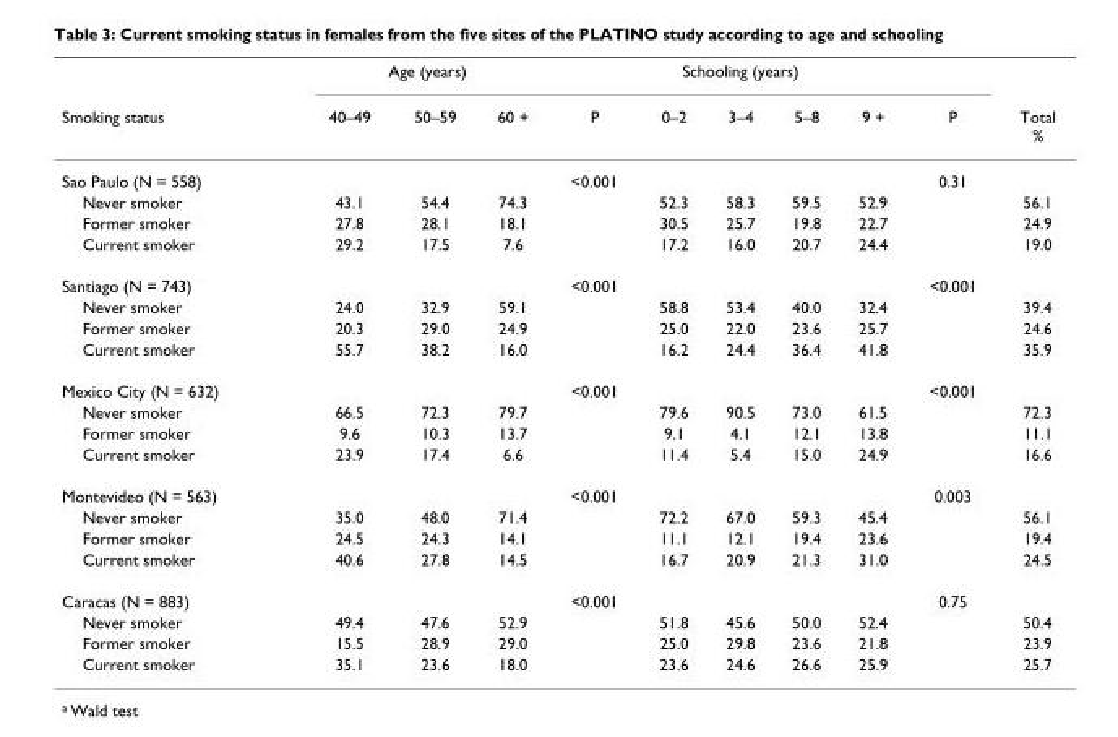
<table><thead><tr><td rowspan="2">Smoking status</td><td colspan="3">Age (years)</td><td rowspan="2">P</td><td colspan="3">Schooling (years)</td><td rowspan="2">9 +</td><td rowspan="2">P</td><td rowspan="2">Total %</td></tr><tr><td>40–49</td><td>50–59</td><td>60 +</td><td>0–2</td><td>3–4</td><td>5–8</td></tr></thead><tbody><tr><td>Sao Paulo (N = 558)</td><td></td><td></td><td></td><td>&lt;0.001</td><td></td><td></td><td></td><td></td><td>0.31</td><td></td></tr><tr><td>Never smoker</td><td>43.1</td><td>54.4</td><td>74.3</td><td></td><td>52.3</td><td>58.3</td><td>59.5</td><td>52.9</td><td></td><td>56.1</td></tr><tr><td>Former smoker</td><td>27.8</td><td>28.1</td><td>18.1</td><td></td><td>30.5</td><td>25.7</td><td>19.8</td><td>22.7</td><td></td><td>24.9</td></tr><tr><td>Current smoker</td><td>29.2</td><td>17.5</td><td>7.6</td><td></td><td>17.2</td><td>16.0</td><td>20.7</td><td>24.4</td><td></td><td>19.0</td></tr><tr><td>Santiago (N = 743)</td><td></td><td></td><td></td><td>&lt;0.001</td><td></td><td></td><td></td><td></td><td>&lt;0.001</td><td></td></tr><tr><td>Never smoker</td><td>24.0</td><td>32.9</td><td>59.1</td><td></td><td>58.8</td><td>53.4</td><td>40.0</td><td>32.4</td><td></td><td>39.4</td></tr><tr><td>Former smoker</td><td>20.3</td><td>29.0</td><td>24.9</td><td></td><td>25.0</td><td>22.0</td><td>23.6</td><td>25.7</td><td></td><td>24.6</td></tr><tr><td>Current smoker</td><td>55.7</td><td>38.2</td><td>16.0</td><td></td><td>16.2</td><td>24.4</td><td>36.4</td><td>41.8</td><td></td><td>35.9</td></tr><tr><td>Mexico City (N = 632)</td><td></td><td></td><td></td><td>&lt;0.001</td><td></td><td></td><td></td><td></td><td>&lt;0.001</td><td></td></tr><tr><td>Never smoker</td><td>66.5</td><td>72.3</td><td>79.7</td><td></td><td>79.6</td><td>90.5</td><td>73.0</td><td>61.5</td><td></td><td>72.3</td></tr><tr><td>Former smoker</td><td>9.6</td><td>10.3</td><td>13.7</td><td></td><td>9.1</td><td>4.1</td><td>12.1</td><td>13.8</td><td></td><td>11.1</td></tr><tr><td>Current smoker</td><td>23.9</td><td>17.4</td><td>6.6</td><td></td><td>11.4</td><td>5.4</td><td>15.0</td><td>24.9</td><td></td><td>16.6</td></tr><tr><td>Montevideo (N = 563)</td><td></td><td></td><td></td><td>&lt;0.001</td><td></td><td></td><td></td><td></td><td>0.003</td><td></td></tr><tr><td>Never smoker</td><td>35.0</td><td>48.0</td><td>71.4</td><td></td><td>72.2</td><td>67.0</td><td>59.3</td><td>45.4</td><td></td><td>56.1</td></tr><tr><td>Former smoker</td><td>24.5</td><td>24.3</td><td>14.1</td><td></td><td>11.1</td><td>12.1</td><td>19.4</td><td>23.6</td><td></td><td>19.4</td></tr><tr><td>Current smoker</td><td>40.6</td><td>27.8</td><td>14.5</td><td></td><td>16.7</td><td>20.9</td><td>21.3</td><td>31.0</td><td></td><td>24.5</td></tr><tr><td>Caracas (N = 883)</td><td></td><td></td><td></td><td>&lt;0.001</td><td></td><td></td><td></td><td></td><td>0.75</td><td></td></tr><tr><td>Never smoker</td><td>49.4</td><td>47.6</td><td>52.9</td><td></td><td>51.8</td><td>45.6</td><td>50.0</td><td>52.4</td><td></td><td>50.4</td></tr><tr><td>Former smoker</td><td>15.5</td><td>28.9</td><td>29.0</td><td></td><td>25.0</td><td>29.8</td><td>23.6</td><td>21.8</td><td></td><td>23.9</td></tr><tr><td>Current smoker</td><td>35.1</td><td>23.6</td><td>18.0</td><td></td><td>23.6</td><td>24.6</td><td>26.6</td><td>25.9</td><td></td><td>25.7</td></tr></tbody></table>